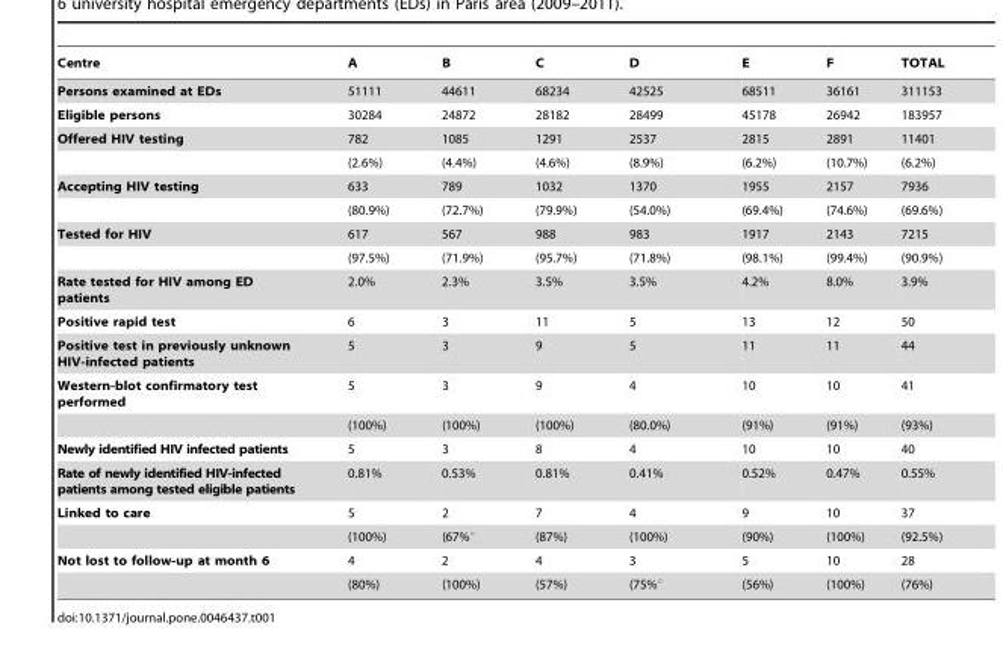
<table><thead><tr><td>Centre</td><td>A</td><td>B</td><td>C</td><td>D</td><td>E</td><td>F</td><td>TOTAL</td></tr></thead><tbody><tr><td>Persons examined at EDs</td><td>51111</td><td>44611</td><td>68234</td><td>42525</td><td>68511</td><td>36161</td><td>311153</td></tr><tr><td>Eligible persons</td><td>30284</td><td>24872</td><td>28182</td><td>28499</td><td>45178</td><td>26942</td><td>183957</td></tr><tr><td rowspan="2">Offered HIV testing</td><td>782</td><td>1085</td><td>1291</td><td>2537</td><td>2815</td><td>2891</td><td>11401</td></tr><tr><td>(2.6%)</td><td>(4.4%)</td><td>(4.6%)</td><td>(8.9%)</td><td>(6.2%)</td><td>(10.7%)</td><td>(6.2%)</td></tr><tr><td rowspan="2">Accepting HIV testing</td><td>633</td><td>789</td><td>1032</td><td>1370</td><td>1955</td><td>2157</td><td>7936</td></tr><tr><td>(80.9%)</td><td>(72.7%)</td><td>(79.9%)</td><td>(54.0%)</td><td>(69.4%)</td><td>(74.6%)</td><td>(69.6%)</td></tr><tr><td rowspan="2">Tested for HIV</td><td>617</td><td>567</td><td>988</td><td>983</td><td>1917</td><td>2143</td><td>7215</td></tr><tr><td>(97.5%)</td><td>(71.9%)</td><td>(95.7%)</td><td>(71.8%)</td><td>(98.1%)</td><td>(99.4%)</td><td>(90.9%)</td></tr><tr><td>Rate tested for HIV among ED patients</td><td>2.0%</td><td>2.3%</td><td>3.5%</td><td>3.5%</td><td>4.2%</td><td>8.0%</td><td>3.9%</td></tr><tr><td>Positive rapid test</td><td>6</td><td>3</td><td>11</td><td>5</td><td>13</td><td>12</td><td>50</td></tr><tr><td>Positive test in previously unknown HIV-infected patients</td><td>5</td><td>3</td><td>9</td><td>5</td><td>11</td><td>11</td><td>44</td></tr><tr><td rowspan="2">Western-blot confirmatory test performed</td><td>5</td><td>3</td><td>9</td><td>4</td><td>10</td><td>10</td><td>41</td></tr><tr><td>(100%)</td><td>(100%)</td><td>(100%)</td><td>(80.0%)</td><td>(91%)</td><td>(91%)</td><td>(93%)</td></tr><tr><td>Newly identified HIV infected patients</td><td>5</td><td>3</td><td>8</td><td>4</td><td>10</td><td>10</td><td>40</td></tr><tr><td>Rate of newly identified HIV-infected patients among tested eligible patients</td><td>0.81%</td><td>0.53%</td><td>0.81%</td><td>0.41%</td><td>0.52%</td><td>0.47%</td><td>0.55%</td></tr><tr><td rowspan="2">Linked to care</td><td>5</td><td>2</td><td>7</td><td>4</td><td>9</td><td>10</td><td>37</td></tr><tr><td>(100%)</td><td>(67%°</td><td>(87%)</td><td>(100%)</td><td>(90%)</td><td>(100%)</td><td>(92.5%)</td></tr><tr><td rowspan="2">Not lost to follow-up at month 6</td><td>4</td><td>2</td><td>4</td><td>3</td><td>5</td><td>10</td><td>28</td></tr><tr><td>(80%)</td><td>(100%)</td><td>(57%)</td><td>(75%°</td><td>(56%)</td><td>(100%)</td><td>(76%)</td></tr></tbody></table>